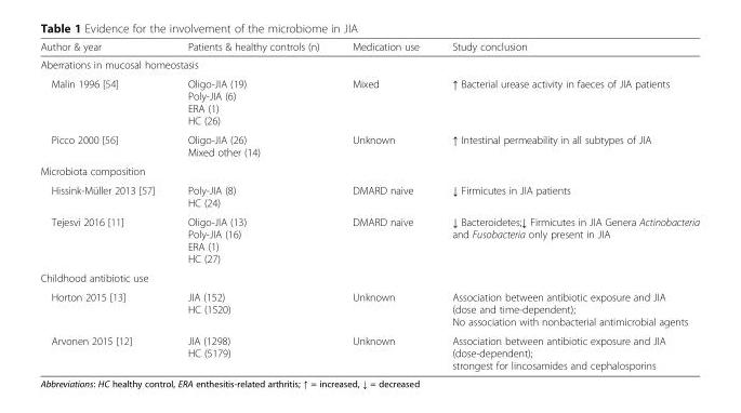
<table><thead><tr><td>Author &amp; year</td><td>Patients &amp; healthy controls (n)</td><td>Medication use</td><td>Study conclusion</td></tr></thead><tbody><tr><td colspan="4">Aberrations in mucosal homeostasis</td></tr><tr><td>Malin 1996 [54]</td><td>Oligo-JIA (19) Poly-JIA (6) ERA (1) HC (26)</td><td>Mixed</td><td>↑ Bacterial urease activity in faeces of JIA patients</td></tr><tr><td>Picco 2000 [56]</td><td>Oligo-JIA (26) Mixed other (14)</td><td>Unknown</td><td>↑ Intestinal permeability in all subtypes of JIA</td></tr><tr><td colspan="4">Microbiota composition</td></tr><tr><td>Hissink-Müller 2013 [57]</td><td>Poly-JIA (8) HC (24)</td><td>DMARD naive</td><td>↓ Firmicutes in JIA patients</td></tr><tr><td>Tejesvi 2016 [11]</td><td>Oligo-JIA (13) Poly-JIA (16) ERA (1) HC (27)</td><td>DMARD naive</td><td>↓ Bacteroidetes;↓ Firmicutes in JIA Genera Actinobacteria and Fusobacteria only present in JIA</td></tr><tr><td colspan="4">Childhood antibiotic use</td></tr><tr><td>Horton 2015 [13]</td><td>JIA (152) HC (1520)</td><td>Unknown</td><td>Association between antibiotic exposure and JIA (dose and time-dependent); No association with nonbacterial antimicrobial agents</td></tr><tr><td>Arvonen 2015 [12]</td><td>JIA (1298) HC (5179)</td><td>Unknown</td><td>Association between antibiotic exposure and JIA (dose-dependent); strongest for lincosamides and cephalosporins</td></tr></tbody></table>